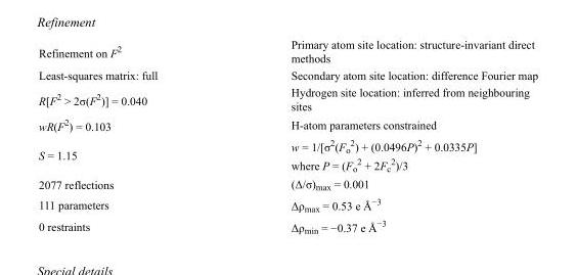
<table><tbody><tr><td>Refinement on F<sup>2</sup></td><td>Primary atom site location: structure-invariant direct methods</td></tr><tr><td>Least-squares matrix: full</td><td>Secondary atom site location: difference Fourier map</td></tr><tr><td>R[F<sup>2</sup> &gt; 2σ(F<sup>2</sup>)] = 0.040</td><td>Hydrogen site location: inferred from neighbouring sites</td></tr><tr><td>wR(F<sup>2</sup>) = 0.103</td><td>H-atom parameters constrained</td></tr><tr><td>S = 1.15</td><td>w = 1/[σ<sup>2</sup>(F<sub>o</sub> <sup>2</sup>) + (0.0496P)<sup>2</sup> + 0.0335P] where P = (F<sub>o</sub> <sup>2</sup> + 2F<sub>c</sub> <sup>2</sup>)/3</td></tr><tr><td>2077 reflections</td><td>(Δ/σ)<sub>max</sub> = 0.001</td></tr><tr><td>111 parameters</td><td>Δρ<sub>max</sub> = 0.53 e Å<sup>−3</sup></td></tr><tr><td>0 restraints</td><td>Δρ<sub>min</sub> = −0.37 e Å<sup>−3</sup></td></tr></tbody></table>